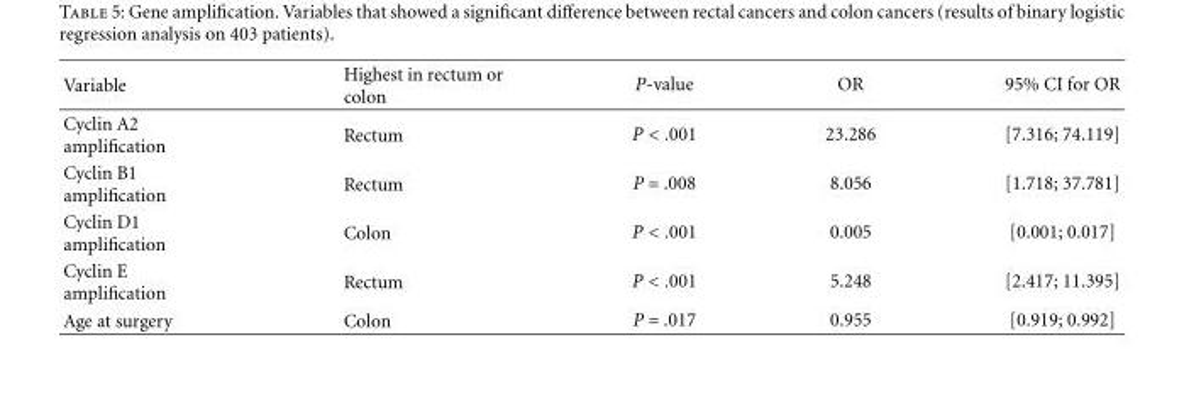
<table><thead><tr><td>Variable</td><td>Highest in rectum or colon</td><td>P-value</td><td>OR</td><td>95% CI for OR</td></tr></thead><tbody><tr><td>Cyclin A2 amplification</td><td>Rectum</td><td>P &lt; .001</td><td>23.286</td><td>[7.316; 74.119]</td></tr><tr><td>Cyclin B1 amplification</td><td>Rectum</td><td>P = .008</td><td>8.056</td><td>[1.718; 37.781]</td></tr><tr><td>Cyclin D1 amplification</td><td>Colon</td><td>P &lt; .001</td><td>0.005</td><td>[0.001; 0.017]</td></tr><tr><td>Cyclin E amplification</td><td>Rectum</td><td>P &lt; .001</td><td>5.248</td><td>[2.417; 11.395]</td></tr><tr><td>Age at surgery</td><td>Colon</td><td>P = .017</td><td>0.955</td><td>[0.919; 0.992]</td></tr></tbody></table>